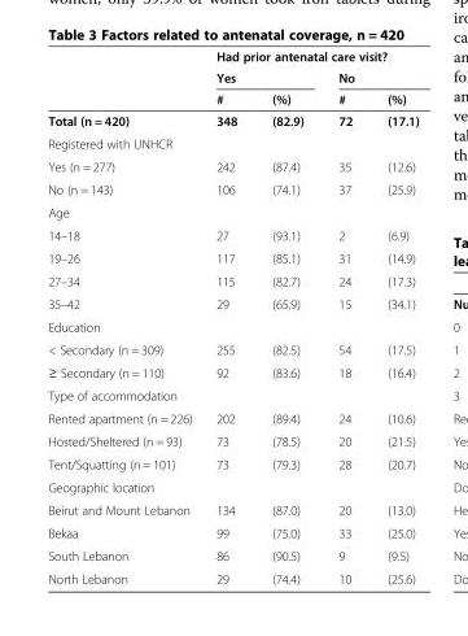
<table><thead><tr><td rowspan="3"></td><td colspan="4">Had prior antenatal care visit?</td></tr><tr><td colspan="2">Yes</td><td colspan="2">No</td></tr><tr><td>#</td><td>(%)</td><td>#</td><td>(%)</td></tr></thead><tbody><tr><td>Total (n = 420)</td><td>348</td><td>(82.9)</td><td>72</td><td>(17.1)</td></tr><tr><td colspan="5">Registered with UNHCR</td></tr><tr><td>Yes (n = 277)</td><td>242</td><td>(87.4)</td><td>35</td><td>(12.6)</td></tr><tr><td>No (n = 143)</td><td>106</td><td>(74.1)</td><td>37</td><td>(25.9)</td></tr><tr><td colspan="5">Age</td></tr><tr><td>14–18</td><td>27</td><td>(93.1)</td><td>2</td><td>(6.9)</td></tr><tr><td>19–26</td><td>117</td><td>(85.1)</td><td>31</td><td>(14.9)</td></tr><tr><td>27–34</td><td>115</td><td>(82.7)</td><td>24</td><td>(17.3)</td></tr><tr><td>35–42</td><td>29</td><td>(65.9)</td><td>15</td><td>(34.1)</td></tr><tr><td colspan="5">Education</td></tr><tr><td>&lt; Secondary (n = 309)</td><td>255</td><td>(82.5)</td><td>54</td><td>(17.5)</td></tr><tr><td>≥ Secondary (n = 110)</td><td>92</td><td>(83.6)</td><td>18</td><td>(16.4)</td></tr><tr><td colspan="5">Type of accommodation</td></tr><tr><td>Rented apartment (n = 226)</td><td>202</td><td>(89.4)</td><td>24</td><td>(10.6)</td></tr><tr><td>Hosted/Sheltered (n = 93)</td><td>73</td><td>(78.5)</td><td>20</td><td>(21.5)</td></tr><tr><td>Tent/Squatting (n = 101)</td><td>73</td><td>(79.3)</td><td>28</td><td>(20.7)</td></tr><tr><td colspan="5">Geographic location</td></tr><tr><td>Beirut and Mount Lebanon</td><td>134</td><td>(87.0)</td><td>20</td><td>(13.0)</td></tr><tr><td>Bekaa</td><td>99</td><td>(75.0)</td><td>33</td><td>(25.0)</td></tr><tr><td>South Lebanon</td><td>86</td><td>(90.5)</td><td>9</td><td>(9.5)</td></tr><tr><td>North Lebanon</td><td>29</td><td>(74.4)</td><td>10</td><td>(25.6)</td></tr></tbody></table>